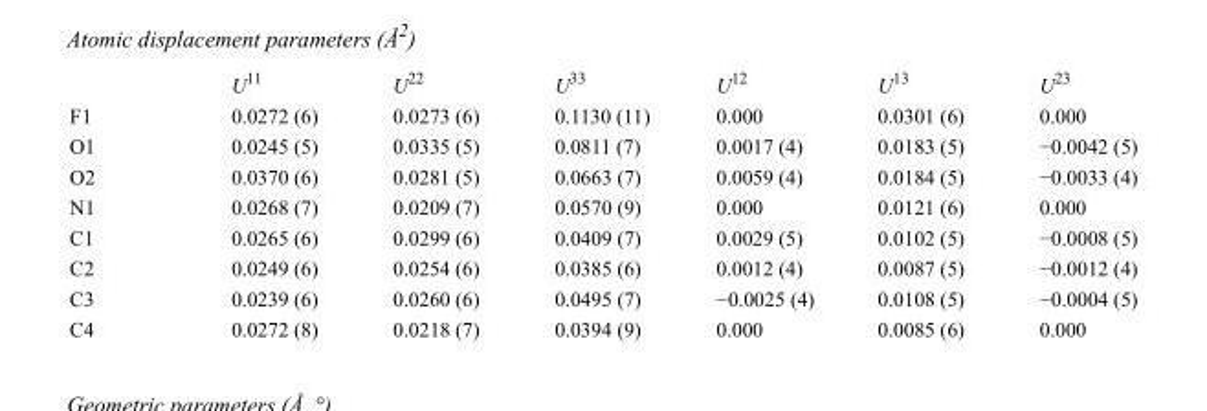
<table><thead><tr><td></td><td>U<sup>11</sup></td><td>U<sup>22</sup></td><td>U<sup>33</sup></td><td>U<sup>12</sup></td><td>U<sup>13</sup></td><td>U<sup>23</sup></td></tr></thead><tbody><tr><td>F1</td><td>0.0272 (6)</td><td>0.0273 (6)</td><td>0.1130 (11)</td><td>0.000</td><td>0.0301 (6)</td><td>0.000</td></tr><tr><td>O1</td><td>0.0245 (5)</td><td>0.0335 (5)</td><td>0.0811 (7)</td><td>0.0017 (4)</td><td>0.0183 (5)</td><td>−0.0042 (5)</td></tr><tr><td>O2</td><td>0.0370 (6)</td><td>0.0281 (5)</td><td>0.0663 (7)</td><td>0.0059 (4)</td><td>0.0184 (5)</td><td>−0.0033 (4)</td></tr><tr><td>N1</td><td>0.0268 (7)</td><td>0.0209 (7)</td><td>0.0570 (9)</td><td>0.000</td><td>0.0121 (6)</td><td>0.000</td></tr><tr><td>C1</td><td>0.0265 (6)</td><td>0.0299 (6)</td><td>0.0409 (7)</td><td>0.0029 (5)</td><td>0.0102 (5)</td><td>−0.0008 (5)</td></tr><tr><td>C2</td><td>0.0249 (6)</td><td>0.0254 (6)</td><td>0.0385 (6)</td><td>0.0012 (4)</td><td>0.0087 (5)</td><td>−0.0012 (4)</td></tr><tr><td>C3</td><td>0.0239 (6)</td><td>0.0260 (6)</td><td>0.0495 (7)</td><td>−0.0025 (4)</td><td>0.0108 (5)</td><td>−0.0004 (5)</td></tr><tr><td>C4</td><td>0.0272 (8)</td><td>0.0218 (7)</td><td>0.0394 (9)</td><td>0.000</td><td>0.0085 (6)</td><td>0.000</td></tr></tbody></table>